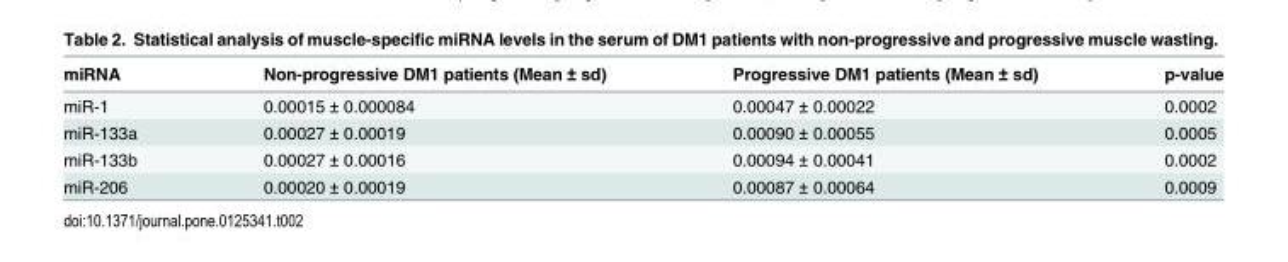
<table><thead><tr><td>miRNA</td><td>Non-progressive DM1 patients (Mean ± sd)</td><td>Progressive DM1 patients (Mean ± sd)</td><td>p-value</td></tr></thead><tbody><tr><td>miR-1</td><td>0.00015 ± 0.000084</td><td>0.00047 ± 0.00022</td><td>0.0002</td></tr><tr><td>miR-133a</td><td>0.00027 ± 0.00019</td><td>0.00090 ± 0.00055</td><td>0.0005</td></tr><tr><td>miR-133b</td><td>0.00027 ± 0.00016</td><td>0.00094 ± 0.00041</td><td>0.0002</td></tr><tr><td>miR-206</td><td>0.00020 ± 0.00019</td><td>0.00087 ± 0.00064</td><td>0.0009</td></tr></tbody></table>